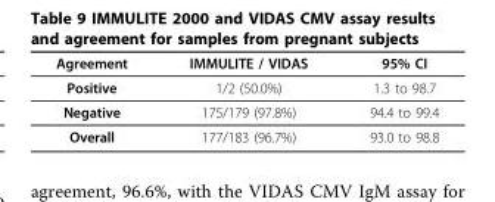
<table><thead><tr><td>Agreement</td><td>IMMULITE / VIDAS</td><td>95% CI</td></tr></thead><tbody><tr><td>Positive</td><td>1/2 (50.0%)</td><td>1.3 to 98.7</td></tr><tr><td>Negative</td><td>175/179 (97.8%)</td><td>94.4 to 99.4</td></tr><tr><td>Overall</td><td>177/183 (96.7%)</td><td>93.0 to 98.8</td></tr></tbody></table>